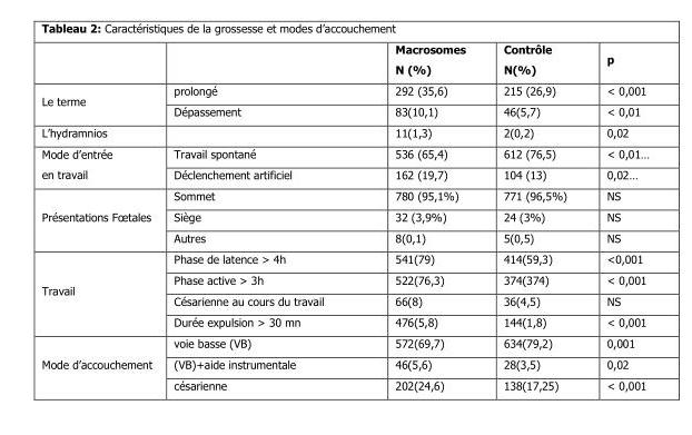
<table><thead><tr><td></td><td></td><td>Macrosomes N (%)</td><td>Contrôle N(%)</td><td>p</td></tr></thead><tbody><tr><td rowspan="2">Le terme</td><td>prolongé</td><td>292 (35,6)</td><td>215 (26,9)</td><td>&lt; 0,001</td></tr><tr><td>Dépassement</td><td>83(10,1)</td><td>46(5,7)</td><td>&lt; 0,01</td></tr><tr><td>L’hydramnios</td><td></td><td>11(1,3)</td><td>2(0,2)</td><td>0,02</td></tr><tr><td rowspan="2">Mode d’entrée en travail</td><td>Travail spontané</td><td>536 (65,4)</td><td>612 (76,5)</td><td>&lt; 0,01…</td></tr><tr><td>Déclenchement artificiel</td><td>162 (19,7)</td><td>104 (13)</td><td>0,02…</td></tr><tr><td rowspan="3">Présentations Fœtales</td><td>Sommet</td><td>780 (95,1%)</td><td>771 (96,5%)</td><td>NS</td></tr><tr><td>Siège</td><td>32 (3,9%)</td><td>24 (3%)</td><td>NS</td></tr><tr><td>Autres</td><td>8(0,1)</td><td>5(0,5)</td><td>NS</td></tr><tr><td rowspan="4">Travail</td><td>Phase de latence &gt; 4h</td><td>541(79)</td><td>414(59,3)</td><td>&lt;0,001</td></tr><tr><td>Phase active &gt; 3h</td><td>522(76,3)</td><td>374(374)</td><td>&lt; 0,001</td></tr><tr><td>Césarienne au cours du travail</td><td>66(8)</td><td>36(4,5)</td><td>NS</td></tr><tr><td>Durée expulsion &gt; 30 mn</td><td>476(5,8)</td><td>144(1,8)</td><td>&lt; 0,001</td></tr><tr><td rowspan="3">Mode d’accouchement</td><td>voie basse (VB)</td><td>572(69,7)</td><td>634(79,2)</td><td>0,001</td></tr><tr><td>(VB)+aide instrumentale</td><td>46(5,6)</td><td>28(3,5)</td><td>0,02</td></tr><tr><td>césarienne</td><td>202(24,6)</td><td>138(17,25)</td><td>&lt; 0,001</td></tr></tbody></table>